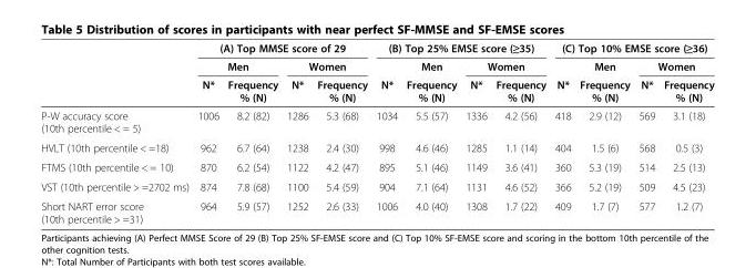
<table><thead><tr><td rowspan="3"></td><td colspan="4">(A) Top MMSE score of 29</td><td colspan="4">(B) Top 25% EMSE score (≥35)</td><td colspan="4">(C) Top 10% EMSE score (≥36)</td></tr><tr><td colspan="2">Men</td><td colspan="2">Women</td><td rowspan="2">N*</td><td rowspan="2">Men Frequency % (N)</td><td colspan="2">Women</td><td rowspan="2">N*</td><td rowspan="2">Men Frequency % (N)</td><td colspan="2">Women</td></tr><tr><td>N*</td><td>Frequency % (N)</td><td>N*</td><td>Frequency % (N)</td><td>N*</td><td>Frequency % (N)</td><td>N*</td><td>Frequency % (N)</td></tr></thead><tbody><tr><td>P-W accuracy score (10th percentile &lt; = 5)</td><td>1006</td><td>8.2 (82)</td><td>1286</td><td>5.3 (68)</td><td>1034</td><td>5.5 (57)</td><td>1336</td><td>4.2 (56)</td><td>418</td><td>2.9 (12)</td><td>569</td><td>3.1 (18)</td></tr><tr><td>HVLT (10th percentile &lt; =18)</td><td>962</td><td>6.7 (64)</td><td>1238</td><td>2.4 (30)</td><td>998</td><td>4.6 (46)</td><td>1285</td><td>1.1 (14)</td><td>404</td><td>1.5 (6)</td><td>568</td><td>0.5 (3)</td></tr><tr><td>FTMS (10th percentile &lt; = 10)</td><td>870</td><td>6.2 (54)</td><td>1122</td><td>4.2 (47)</td><td>895</td><td>5.1 (46)</td><td>1149</td><td>3.6 (41)</td><td>360</td><td>5.3 (19)</td><td>514</td><td>2.5 (13)</td></tr><tr><td>VST (10th percentile &gt; =2702 ms)</td><td>874</td><td>7.8 (68)</td><td>1100</td><td>5.4 (59)</td><td>904</td><td>7.1 (64)</td><td>1131</td><td>4.6 (52)</td><td>366</td><td>5.2 (19)</td><td>509</td><td>4.5 (23)</td></tr><tr><td>Short NART error score (10th percentile &gt; =31)</td><td>964</td><td>5.9 (57)</td><td>1252</td><td>2.6 (33)</td><td>1006</td><td>4.0 (40)</td><td>1308</td><td>1.7 (22)</td><td>409</td><td>1.7 (7)</td><td>577</td><td>1.2 (7)</td></tr></tbody></table>